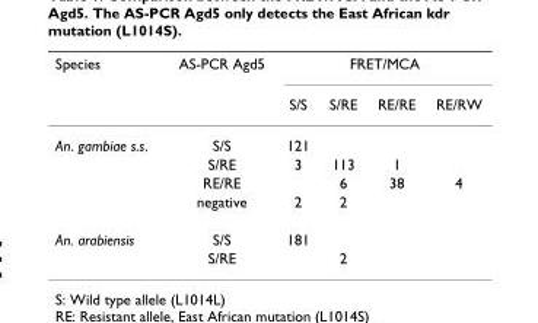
<table><thead><tr><td rowspan="2">Species</td><td rowspan="2">AS-PCR Agd5</td><td colspan="4">FRET/MCA</td></tr><tr><td>S/S</td><td>S/RE</td><td>RE/RE</td><td>RE/RW</td></tr></thead><tbody><tr><td rowspan="4">An. gambiae s.s.</td><td>S/S</td><td>121</td><td></td><td></td><td></td></tr><tr><td>S/RE</td><td>3</td><td>113</td><td>1</td><td></td></tr><tr><td>RE/RE</td><td></td><td>6</td><td>38</td><td>4</td></tr><tr><td>negative</td><td>2</td><td>2</td><td></td><td></td></tr><tr><td rowspan="2">An. arabiensis</td><td>S/S</td><td>181</td><td></td><td></td><td></td></tr><tr><td>S/RE</td><td></td><td>2</td><td></td><td></td></tr></tbody></table>